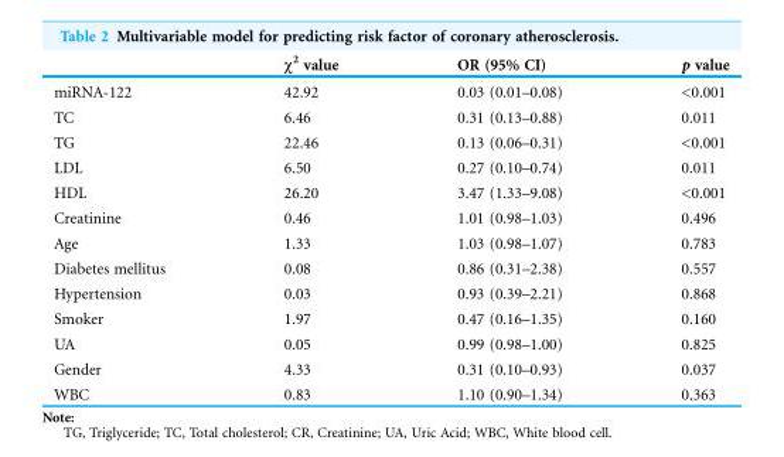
<table><thead><tr><td></td><td>χ<sup>2</sup> value</td><td>OR (95% CI)</td><td>p value</td></tr></thead><tbody><tr><td>miRNA-122</td><td>42.92</td><td>0.03 (0.01–0.08)</td><td>&lt;0.001</td></tr><tr><td>TC</td><td>6.46</td><td>0.31 (0.13–0.88)</td><td>0.011</td></tr><tr><td>TG</td><td>22.46</td><td>0.13 (0.06–0.31)</td><td>&lt;0.001</td></tr><tr><td>LDL</td><td>6.50</td><td>0.27 (0.10–0.74)</td><td>0.011</td></tr><tr><td>HDL</td><td>26.20</td><td>3.47 (1.33–9.08)</td><td>&lt;0.001</td></tr><tr><td>Creatinine</td><td>0.46</td><td>1.01 (0.98–1.03)</td><td>0.496</td></tr><tr><td>Age</td><td>1.33</td><td>1.03 (0.98–1.07)</td><td>0.783</td></tr><tr><td>Diabetes mellitus</td><td>0.08</td><td>0.86 (0.31–2.38)</td><td>0.557</td></tr><tr><td>Hypertension</td><td>0.03</td><td>0.93 (0.39–2.21)</td><td>0.868</td></tr><tr><td>Smoker</td><td>1.97</td><td>0.47 (0.16–1.35)</td><td>0.160</td></tr><tr><td>UA</td><td>0.05</td><td>0.99 (0.98–1.00)</td><td>0.825</td></tr><tr><td>Gender</td><td>4.33</td><td>0.31 (0.10–0.93)</td><td>0.037</td></tr><tr><td>WBC</td><td>0.83</td><td>1.10 (0.90–1.34)</td><td>0.363</td></tr></tbody></table>